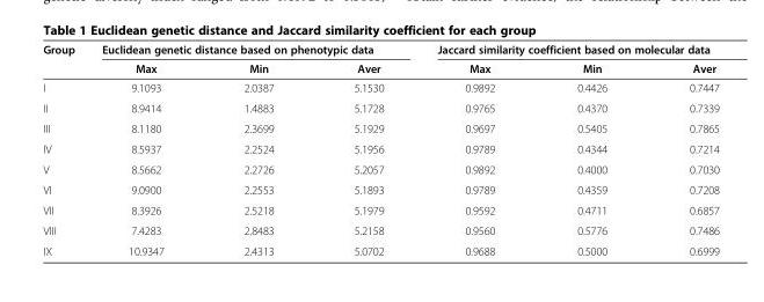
<table><thead><tr><td rowspan="2">Group</td><td colspan="3">Euclidean genetic distance based on phenotypic data</td><td colspan="3">Jaccard similarity coefficient based on molecular data</td></tr><tr><td>Max</td><td>Min</td><td>Aver</td><td>Max</td><td>Min</td><td>Aver</td></tr></thead><tbody><tr><td>I</td><td>9.1093</td><td>2.0387</td><td>5.1530</td><td>0.9892</td><td>0.4426</td><td>0.7447</td></tr><tr><td>II</td><td>8.9414</td><td>1.4883</td><td>5.1728</td><td>0.9765</td><td>0.4370</td><td>0.7339</td></tr><tr><td>III</td><td>8.1180</td><td>2.3699</td><td>5.1929</td><td>0.9697</td><td>0.5405</td><td>0.7865</td></tr><tr><td>IV</td><td>8.5937</td><td>2.2524</td><td>5.1956</td><td>0.9789</td><td>0.4344</td><td>0.7214</td></tr><tr><td>V</td><td>8.5662</td><td>2.2726</td><td>5.2057</td><td>0.9892</td><td>0.4000</td><td>0.7030</td></tr><tr><td>VI</td><td>9.0900</td><td>2.2553</td><td>5.1893</td><td>0.9789</td><td>0.4359</td><td>0.7208</td></tr><tr><td>VII</td><td>8.3926</td><td>2.5218</td><td>5.1979</td><td>0.9592</td><td>0.4711</td><td>0.6857</td></tr><tr><td>VIII</td><td>7.4283</td><td>2.8483</td><td>5.2158</td><td>0.9560</td><td>0.5776</td><td>0.7486</td></tr><tr><td>IX</td><td>10.9347</td><td>2.4313</td><td>5.0702</td><td>0.9688</td><td>0.5000</td><td>0.6999</td></tr></tbody></table>